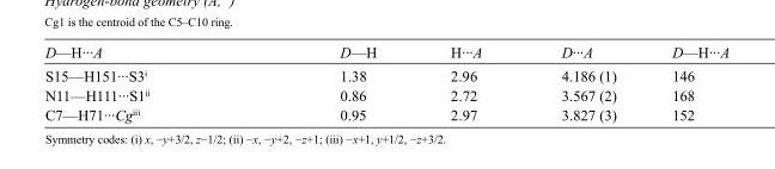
<table><tbody><tr><td>D—H···A</td><td>D—H</td><td>H···A</td><td>D···A</td><td>D—H···A</td></tr><tr><td>S15—H151···S3<sup>i</sup></td><td>1.38</td><td>2.96</td><td>4.186 (1)</td><td>146</td></tr><tr><td>N11—H111···S1<sup>ii</sup></td><td>0.86</td><td>2.72</td><td>3.567 (2)</td><td>168</td></tr><tr><td>C7—H71···Cg<sup>iii</sup></td><td>0.95</td><td>2.97</td><td>3.827 (3)</td><td>152</td></tr></tbody></table>